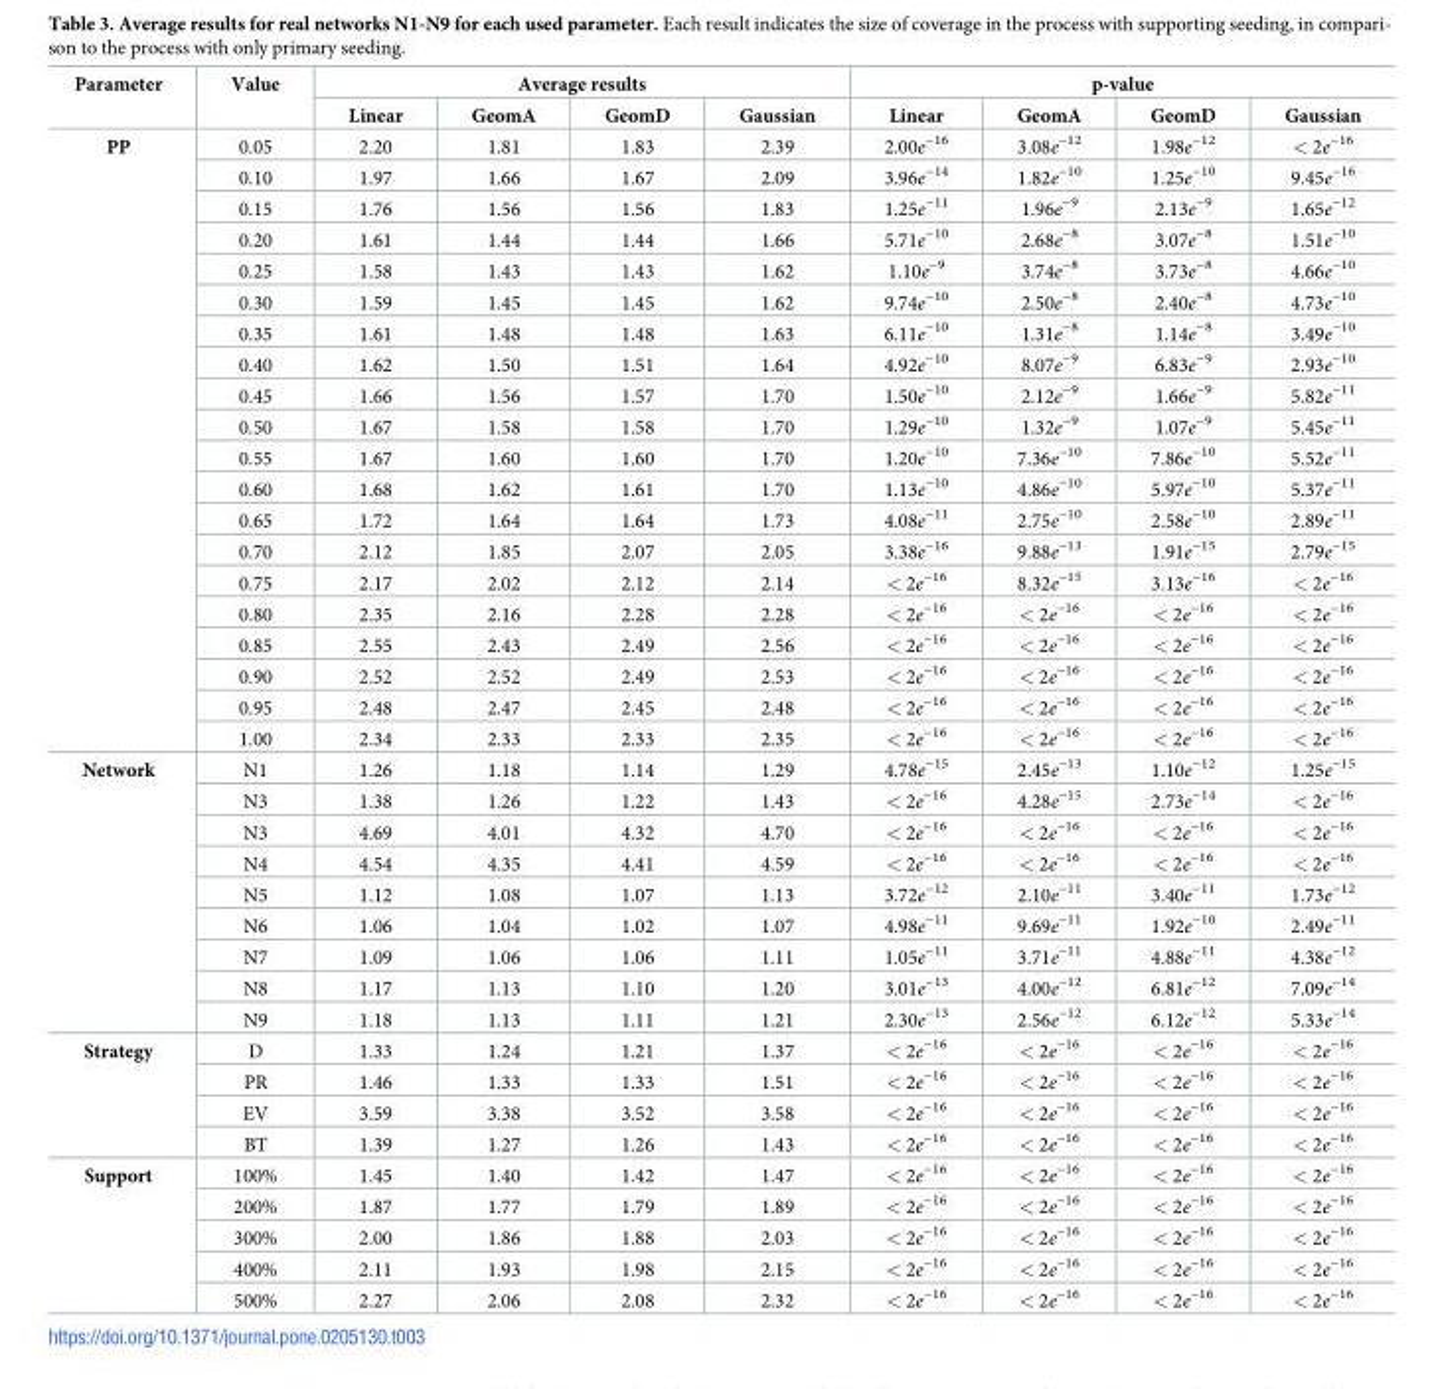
<table><thead><tr><td rowspan="2">Parameter</td><td rowspan="2">Value</td><td colspan="4">Average results</td><td colspan="4">p-value</td></tr><tr><td>Linear</td><td>GeomA</td><td>GeomD</td><td>Gaussian</td><td>Linear</td><td>GeomA</td><td>GeomD</td><td>Gaussian</td></tr></thead><tbody><tr><td rowspan="20">PP</td><td>0.05</td><td>2.20</td><td>1.81</td><td>1.83</td><td>2.39</td><td>2.00e<sup>−16</sup></td><td>3.08e<sup>−12</sup></td><td>1.98e<sup>−12</sup></td><td>&lt; 2e<sup>−16</sup></td></tr><tr><td>0.10</td><td>1.97</td><td>1.66</td><td>1.67</td><td>2.09</td><td>3.96e<sup>−14</sup></td><td>1.82e<sup>−10</sup></td><td>1.25e<sup>−10</sup></td><td>9.45e<sup>−16</sup></td></tr><tr><td>0.15</td><td>1.76</td><td>1.56</td><td>1.56</td><td>1.83</td><td>1.25e<sup>−11</sup></td><td>1.96e<sup>−9</sup></td><td>2.13e<sup>−9</sup></td><td>1.65e<sup>−12</sup></td></tr><tr><td>0.20</td><td>1.61</td><td>1.44</td><td>1.44</td><td>1.66</td><td>5.71e<sup>−10</sup></td><td>2.68e<sup>−8</sup></td><td>3.07e<sup>−8</sup></td><td>1.51e<sup>−10</sup></td></tr><tr><td>0.25</td><td>1.58</td><td>1.43</td><td>1.43</td><td>1.62</td><td>1.10e<sup>−9</sup></td><td>3.74e<sup>−8</sup></td><td>3.73e<sup>−8</sup></td><td>4.66e<sup>−10</sup></td></tr><tr><td>0.30</td><td>1.59</td><td>1.45</td><td>1.45</td><td>1.62</td><td>9.74e<sup>−10</sup></td><td>2.50e<sup>−8</sup></td><td>2.40e<sup>−8</sup></td><td>4.73e<sup>−10</sup></td></tr><tr><td>0.35</td><td>1.61</td><td>1.48</td><td>1.48</td><td>1.63</td><td>6.11e<sup>−10</sup></td><td>1.31e<sup>−8</sup></td><td>1.14e<sup>−8</sup></td><td>3.49e<sup>−10</sup></td></tr><tr><td>0.40</td><td>1.62</td><td>1.50</td><td>1.51</td><td>1.64</td><td>4.92e<sup>−10</sup></td><td>8.07e<sup>−9</sup></td><td>6.83e<sup>−9</sup></td><td>2.93e<sup>−10</sup></td></tr><tr><td>0.45</td><td>1.66</td><td>1.56</td><td>1.57</td><td>1.70</td><td>1.50e<sup>−10</sup></td><td>2.12e<sup>−9</sup></td><td>1.66e<sup>−9</sup></td><td>5.82e<sup>−11</sup></td></tr><tr><td>0.50</td><td>1.67</td><td>1.58</td><td>1.58</td><td>1.70</td><td>1.29e<sup>−10</sup></td><td>1.32e<sup>−9</sup></td><td>1.07e<sup>−9</sup></td><td>5.45e<sup>−11</sup></td></tr><tr><td>0.55</td><td>1.67</td><td>1.60</td><td>1.60</td><td>1.70</td><td>1.20e<sup>−10</sup></td><td>7.36e<sup>−10</sup></td><td>7.86e<sup>−10</sup></td><td>5.52e<sup>−11</sup></td></tr><tr><td>0.60</td><td>1.68</td><td>1.62</td><td>1.61</td><td>1.70</td><td>1.13e<sup>−10</sup></td><td>4.86e<sup>−10</sup></td><td>5.97e<sup>−10</sup></td><td>5.37e<sup>−11</sup></td></tr><tr><td>0.65</td><td>1.72</td><td>1.64</td><td>1.64</td><td>1.73</td><td>4.08e<sup>−11</sup></td><td>2.75e<sup>−10</sup></td><td>2.58e<sup>−10</sup></td><td>2.89e<sup>−11</sup></td></tr><tr><td>0.70</td><td>2.12</td><td>1.85</td><td>2.07</td><td>2.05</td><td>3.38e<sup>−16</sup></td><td>9.88e<sup>−13</sup></td><td>1.91e<sup>−15</sup></td><td>2.79e<sup>−15</sup></td></tr><tr><td>0.75</td><td>2.17</td><td>2.02</td><td>2.12</td><td>2.14</td><td>&lt; 2e<sup>−16</sup></td><td>8.32e<sup>−15</sup></td><td>3.13e<sup>−16</sup></td><td>&lt; 2e<sup>−16</sup></td></tr><tr><td>0.80</td><td>2.35</td><td>2.16</td><td>2.28</td><td>2.28</td><td>&lt; 2e<sup>−16</sup></td><td>&lt; 2e<sup>−16</sup></td><td>&lt; 2e<sup>−16</sup></td><td>&lt; 2e<sup>−16</sup></td></tr><tr><td>0.85</td><td>2.55</td><td>2.43</td><td>2.49</td><td>2.56</td><td>&lt; 2e<sup>−16</sup></td><td>&lt; 2e<sup>−16</sup></td><td>&lt; 2e<sup>−16</sup></td><td>&lt; 2e<sup>−16</sup></td></tr><tr><td>0.90</td><td>2.52</td><td>2.52</td><td>2.49</td><td>2.53</td><td>&lt; 2e<sup>−16</sup></td><td>&lt; 2e<sup>−16</sup></td><td>&lt; 2e<sup>−16</sup></td><td>&lt; 2e<sup>−16</sup></td></tr><tr><td>0.95</td><td>2.48</td><td>2.47</td><td>2.45</td><td>2.48</td><td>&lt; 2e<sup>−16</sup></td><td>&lt; 2e<sup>−16</sup></td><td>&lt; 2e<sup>−16</sup></td><td>&lt; 2e<sup>−16</sup></td></tr><tr><td>1.00</td><td>2.34</td><td>2.33</td><td>2.33</td><td>2.35</td><td>&lt; 2e<sup>−16</sup></td><td>&lt; 2e<sup>−16</sup></td><td>&lt; 2e<sup>−16</sup></td><td>&lt; 2e<sup>−16</sup></td></tr><tr><td rowspan="9">Network</td><td>N1</td><td>1.26</td><td>1.18</td><td>1.14</td><td>1.29</td><td>4.78e<sup>−15</sup></td><td>2.45e<sup>−13</sup></td><td>1.10e<sup>−12</sup></td><td>1.25e<sup>−15</sup></td></tr><tr><td>N3</td><td>1.38</td><td>1.26</td><td>1.22</td><td>1.43</td><td>&lt; 2e<sup>−16</sup></td><td>4.28e<sup>−15</sup></td><td>2.73e<sup>−14</sup></td><td>&lt; 2e<sup>−16</sup></td></tr><tr><td>N3</td><td>4.69</td><td>4.01</td><td>4.32</td><td>4.70</td><td>&lt; 2e<sup>−16</sup></td><td>&lt; 2e<sup>−16</sup></td><td>&lt; 2e<sup>−16</sup></td><td>&lt; 2e<sup>−16</sup></td></tr><tr><td>N4</td><td>4.54</td><td>4.35</td><td>4.41</td><td>4.59</td><td>&lt; 2e<sup>−16</sup></td><td>&lt; 2e<sup>−16</sup></td><td>&lt; 2e<sup>−16</sup></td><td>&lt; 2e<sup>−16</sup></td></tr><tr><td>N5</td><td>1.12</td><td>1.08</td><td>1.07</td><td>1.13</td><td>3.72e<sup>−12</sup></td><td>2.10e<sup>−11</sup></td><td>3.40e<sup>−11</sup></td><td>1.73e<sup>−12</sup></td></tr><tr><td>N6</td><td>1.06</td><td>1.04</td><td>1.02</td><td>1.07</td><td>4.98e<sup>−11</sup></td><td>9.69e<sup>−11</sup></td><td>1.92e<sup>−10</sup></td><td>2.49e<sup>−11</sup></td></tr><tr><td>N7</td><td>1.09</td><td>1.06</td><td>1.06</td><td>1.11</td><td>1.05e<sup>−11</sup></td><td>3.71e<sup>−11</sup></td><td>4.88e<sup>−11</sup></td><td>4.38e<sup>−12</sup></td></tr><tr><td>N8</td><td>1.17</td><td>1.13</td><td>1.10</td><td>1.20</td><td>3.01e<sup>−13</sup></td><td>4.00e<sup>−12</sup></td><td>6.81e<sup>−12</sup></td><td>7.09e<sup>−14</sup></td></tr><tr><td>N9</td><td>1.18</td><td>1.13</td><td>1.11</td><td>1.21</td><td>2.30e<sup>−13</sup></td><td>2.56e<sup>−12</sup></td><td>6.12e<sup>−12</sup></td><td>5.33e<sup>−14</sup></td></tr><tr><td rowspan="4">Strategy</td><td>D</td><td>1.33</td><td>1.24</td><td>1.21</td><td>1.37</td><td>&lt; 2e<sup>−16</sup></td><td>&lt; 2e<sup>−16</sup></td><td>&lt; 2e<sup>−16</sup></td><td>&lt; 2e<sup>−16</sup></td></tr><tr><td>PR</td><td>1.46</td><td>1.33</td><td>1.33</td><td>1.51</td><td>&lt; 2e<sup>−16</sup></td><td>&lt; 2e<sup>−16</sup></td><td>&lt; 2e<sup>−16</sup></td><td>&lt; 2e<sup>−16</sup></td></tr><tr><td>EV</td><td>3.59</td><td>3.38</td><td>3.52</td><td>3.58</td><td>&lt; 2e<sup>−16</sup></td><td>&lt; 2e<sup>−16</sup></td><td>&lt; 2e<sup>−16</sup></td><td>&lt; 2e<sup>−16</sup></td></tr><tr><td>BT</td><td>1.39</td><td>1.27</td><td>1.26</td><td>1.43</td><td>&lt; 2e<sup>−16</sup></td><td>&lt; 2e<sup>−16</sup></td><td>&lt; 2e<sup>−16</sup></td><td>&lt; 2e<sup>−16</sup></td></tr><tr><td rowspan="5">Support</td><td>100%</td><td>1.45</td><td>1.40</td><td>1.42</td><td>1.47</td><td>&lt; 2e<sup>−16</sup></td><td>&lt; 2e<sup>−16</sup></td><td>&lt; 2e<sup>−16</sup></td><td>&lt; 2e<sup>−16</sup></td></tr><tr><td>200%</td><td>1.87</td><td>1.77</td><td>1.79</td><td>1.89</td><td>&lt; 2e<sup>−16</sup></td><td>&lt; 2e<sup>−16</sup></td><td>&lt; 2e<sup>−16</sup></td><td>&lt; 2e<sup>−16</sup></td></tr><tr><td>300%</td><td>2.00</td><td>1.86</td><td>1.88</td><td>2.03</td><td>&lt; 2e<sup>−16</sup></td><td>&lt; 2e<sup>−16</sup></td><td>&lt; 2e<sup>−16</sup></td><td>&lt; 2e<sup>−16</sup></td></tr><tr><td>400%</td><td>2.11</td><td>1.93</td><td>1.98</td><td>2.15</td><td>&lt; 2e<sup>−16</sup></td><td>&lt; 2e<sup>−16</sup></td><td>&lt; 2e<sup>−16</sup></td><td>&lt; 2e<sup>−16</sup></td></tr><tr><td>500%</td><td>2.27</td><td>2.06</td><td>2.08</td><td>2.32</td><td>&lt; 2e<sup>−16</sup></td><td>&lt; 2e<sup>−16</sup></td><td>&lt; 2e<sup>−16</sup></td><td>&lt; 2e<sup>−16</sup></td></tr></tbody></table>